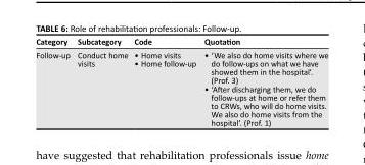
<table><thead><tr><td>Category</td><td>Subcategory</td><td>Code</td><td>Quotation</td></tr></thead><tbody><tr><td>Follow-up</td><td>Conduct home visits</td><td>• Home visits • Home follow-up</td><td>• ‘We also do home visits where we do follow-ups on what we have showed them in the hospital’. (Prof. 3) • ‘After discharging them, we do follow-ups at home or refer them to CRWs, who will do home visits. We also do home visits from the hospital’. (Prof. 1)</td></tr></tbody></table>